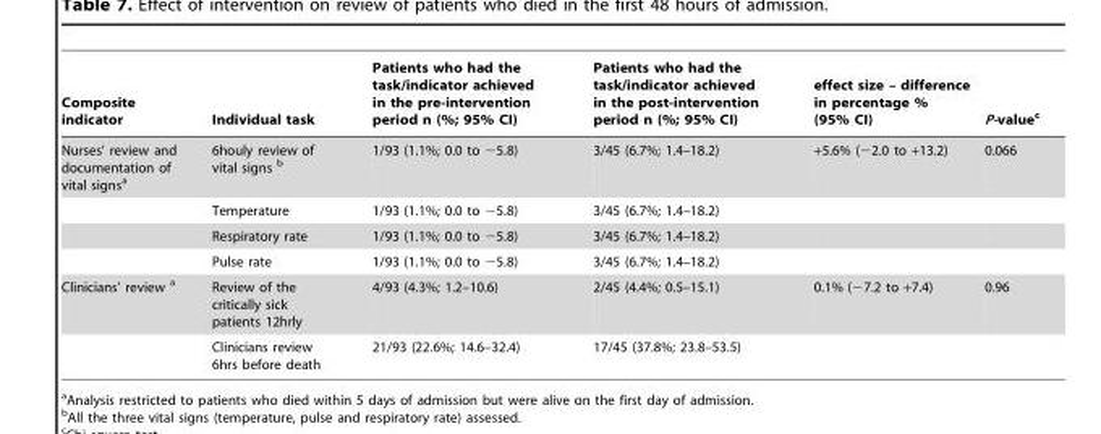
<table><thead><tr><td>Composite indicator</td><td>Individual task</td><td>Patients who had the task/indicator achieved in the pre-intervention period n (%; 95% CI)</td><td>Patients who had the task/indicator achieved in the post-intervention period n (%; 95% CI)</td><td>effect size – difference in percentage % (95% CI)</td><td>P-value<sup>c</sup></td></tr></thead><tbody><tr><td rowspan="4">Nurses’ review and documentation of vital signs<sup>a</sup></td><td>6houly review of vital signs b</td><td>1/93 (1.1%; 0.0 to −5.8)</td><td>3/45 (6.7%; 1.4–18.2)</td><td>+5.6% (−2.0 to +13.2)</td><td>0.066</td></tr><tr><td>Temperature</td><td>1/93 (1.1%; 0.0 to −5.8)</td><td>3/45 (6.7%; 1.4–18.2)</td><td></td><td></td></tr><tr><td>Respiratory rate</td><td>1/93 (1.1%; 0.0 to −5.8)</td><td>3/45 (6.7%; 1.4–18.2)</td><td></td><td></td></tr><tr><td>Pulse rate</td><td>1/93 (1.1%; 0.0 to −5.8)</td><td>3/45 (6.7%; 1.4–18.2)</td><td></td><td></td></tr><tr><td rowspan="2">Clinicians’ review a</td><td>Review of the critically sick patients 12hrly</td><td>4/93 (4.3%; 1.2–10.6)</td><td>2/45 (4.4%; 0.5–15.1)</td><td>0.1% (−7.2 to +7.4)</td><td>0.96</td></tr><tr><td>Clinicians review 6hrs before death</td><td>21/93 (22.6%; 14.6–32.4)</td><td>17/45 (37.8%; 23.8–53.5)</td><td></td><td></td></tr></tbody></table>